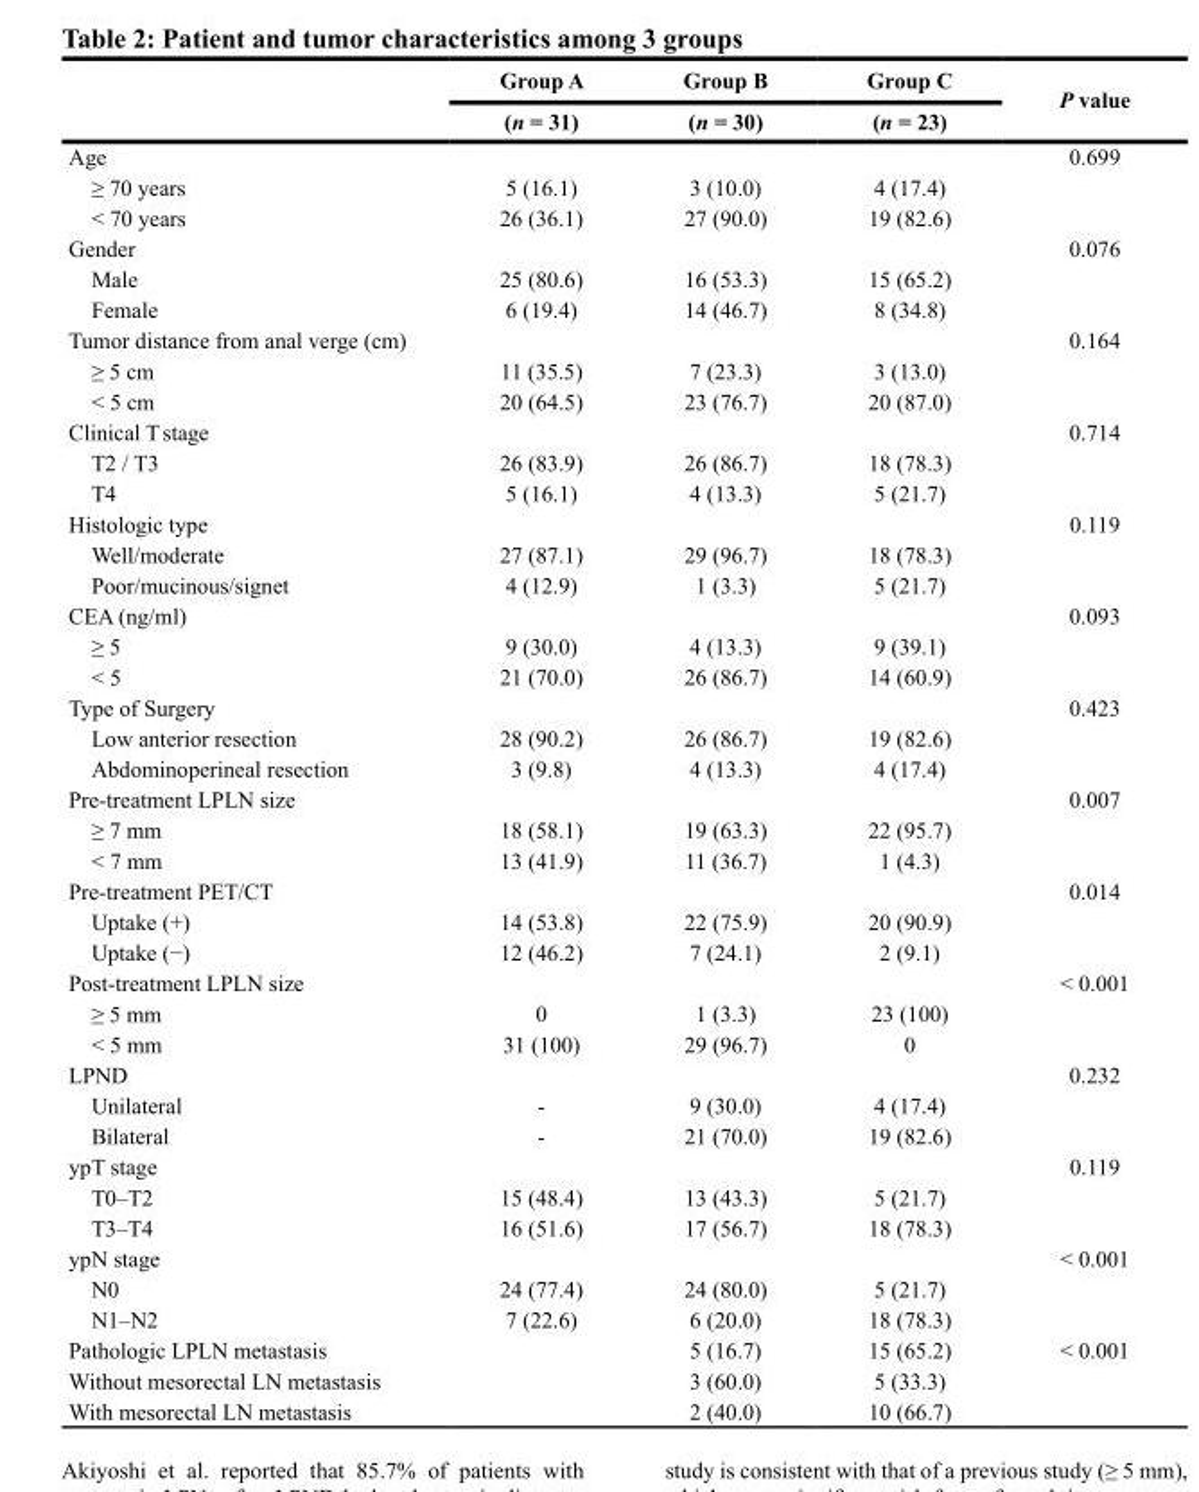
<table><thead><tr><td rowspan="2"></td><td rowspan="2">Group A (n = 31)</td><td rowspan="2">Group B (n = 30)</td><td rowspan="2">Group C (n = 23)</td><td rowspan="2">P value</td></tr><tr></tr></thead><tbody><tr><td>Age</td><td></td><td></td><td></td><td>0.699</td></tr><tr><td>≥ 70 years</td><td>5 (16.1)</td><td>3 (10.0)</td><td>4 (17.4)</td><td></td></tr><tr><td>&lt; 70 years</td><td>26 (36.1)</td><td>27 (90.0)</td><td>19 (82.6)</td><td></td></tr><tr><td>Gender</td><td></td><td></td><td></td><td>0.076</td></tr><tr><td>Male</td><td>25 (80.6)</td><td>16 (53.3)</td><td>15 (65.2)</td><td></td></tr><tr><td>Female</td><td>6 (19.4)</td><td>14 (46.7)</td><td>8 (34.8)</td><td></td></tr><tr><td>Tumor distance from anal verge (cm)</td><td></td><td></td><td></td><td>0.164</td></tr><tr><td>≥ 5 cm</td><td>11 (35.5)</td><td>7 (23.3)</td><td>3 (13.0)</td><td></td></tr><tr><td>&lt; 5 cm</td><td>20 (64.5)</td><td>23 (76.7)</td><td>20 (87.0)</td><td></td></tr><tr><td>Clinical T stage</td><td></td><td></td><td></td><td>0.714</td></tr><tr><td>T2 / T3</td><td>26 (83.9)</td><td>26 (86.7)</td><td>18 (78.3)</td><td></td></tr><tr><td>T4</td><td>5 (16.1)</td><td>4 (13.3)</td><td>5 (21.7)</td><td></td></tr><tr><td>Histologic type</td><td></td><td></td><td></td><td>0.119</td></tr><tr><td>Well/moderate</td><td>27 (87.1)</td><td>29 (96.7)</td><td>18 (78.3)</td><td></td></tr><tr><td>Poor/mucinous/signet</td><td>4 (12.9)</td><td>1 (3.3)</td><td>5 (21.7)</td><td></td></tr><tr><td>CEA (ng/ml)</td><td></td><td></td><td></td><td>0.093</td></tr><tr><td>≥ 5</td><td>9 (30.0)</td><td>4 (13.3)</td><td>9 (39.1)</td><td></td></tr><tr><td>&lt; 5</td><td>21 (70.0)</td><td>26 (86.7)</td><td>14 (60.9)</td><td></td></tr><tr><td>Type of Surgery</td><td></td><td></td><td></td><td>0.423</td></tr><tr><td>Low anterior resection</td><td>28 (90.2)</td><td>26 (86.7)</td><td>19 (82.6)</td><td></td></tr><tr><td>Abdominoperineal resection</td><td>3 (9.8)</td><td>4 (13.3)</td><td>4 (17.4)</td><td></td></tr><tr><td>Pre-treatment LPLN size</td><td></td><td></td><td></td><td>0.007</td></tr><tr><td>≥ 7 mm</td><td>18 (58.1)</td><td>19 (63.3)</td><td>22 (95.7)</td><td></td></tr><tr><td>&lt; 7 mm</td><td>13 (41.9)</td><td>11 (36.7)</td><td>1 (4.3)</td><td></td></tr><tr><td>Pre-treatment PET/CT</td><td></td><td></td><td></td><td>0.014</td></tr><tr><td>Uptake (+)</td><td>14 (53.8)</td><td>22 (75.9)</td><td>20 (90.9)</td><td></td></tr><tr><td>Uptake (−)</td><td>12 (46.2)</td><td>7 (24.1)</td><td>2 (9.1)</td><td></td></tr><tr><td>Post-treatment LPLN size</td><td></td><td></td><td></td><td>&lt; 0.001</td></tr><tr><td>≥ 5 mm</td><td>0</td><td>1 (3.3)</td><td>23 (100)</td><td></td></tr><tr><td>&lt; 5 mm</td><td>31 (100)</td><td>29 (96.7)</td><td>0</td><td></td></tr><tr><td>LPND</td><td></td><td></td><td></td><td>0.232</td></tr><tr><td>Unilateral</td><td>-</td><td>9 (30.0)</td><td>4 (17.4)</td><td></td></tr><tr><td>Bilateral</td><td>-</td><td>21 (70.0)</td><td>19 (82.6)</td><td></td></tr><tr><td>ypT stage</td><td></td><td></td><td></td><td>0.119</td></tr><tr><td>T0–T2</td><td>15 (48.4)</td><td>13 (43.3)</td><td>5 (21.7)</td><td></td></tr><tr><td>T3–T4</td><td>16 (51.6)</td><td>17 (56.7)</td><td>18 (78.3)</td><td></td></tr><tr><td>ypN stage</td><td></td><td></td><td></td><td>&lt; 0.001</td></tr><tr><td>N0</td><td>24 (77.4)</td><td>24 (80.0)</td><td>5 (21.7)</td><td></td></tr><tr><td>N1–N2</td><td>7 (22.6)</td><td>6 (20.0)</td><td>18 (78.3)</td><td></td></tr><tr><td>Pathologic LPLN metastasis</td><td></td><td>5 (16.7)</td><td>15 (65.2)</td><td>&lt; 0.001</td></tr><tr><td>Without mesorectal LN metastasis</td><td></td><td>3 (60.0)</td><td>5 (33.3)</td><td></td></tr><tr><td>With mesorectal LN metastasis</td><td></td><td>2 (40.0)</td><td>10 (66.7)</td><td></td></tr></tbody></table>